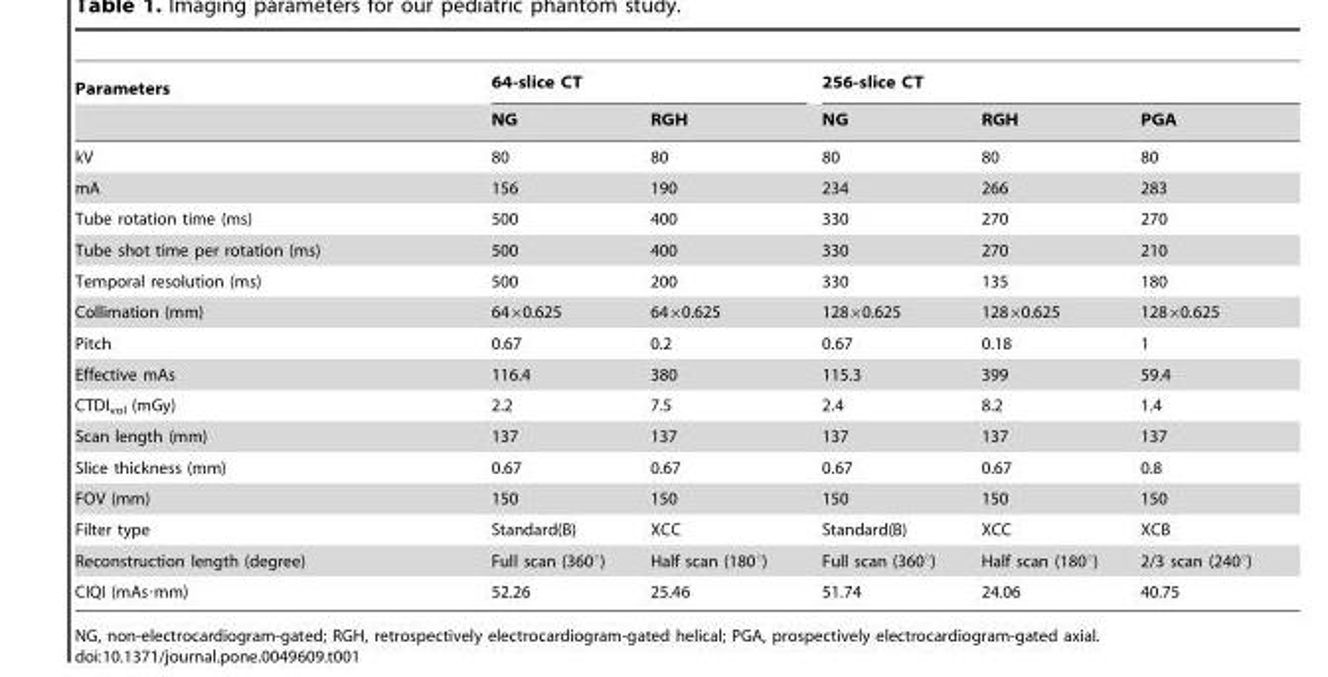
<table><thead><tr><td rowspan="2">Parameters</td><td colspan="2">64-slice CT</td><td colspan="3">256-slice CT</td></tr><tr><td>NG</td><td>RGH</td><td>NG</td><td>RGH</td><td>PGA</td></tr></thead><tbody><tr><td>kV</td><td>80</td><td>80</td><td>80</td><td>80</td><td>80</td></tr><tr><td>mA</td><td>156</td><td>190</td><td>234</td><td>266</td><td>283</td></tr><tr><td>Tube rotation time (ms)</td><td>500</td><td>400</td><td>330</td><td>270</td><td>270</td></tr><tr><td>Tube shot time per rotation (ms)</td><td>500</td><td>400</td><td>330</td><td>270</td><td>210</td></tr><tr><td>Temporal resolution (ms)</td><td>500</td><td>200</td><td>330</td><td>135</td><td>180</td></tr><tr><td>Collimation (mm)</td><td>64×0.625</td><td>64×0.625</td><td>128×0.625</td><td>128×0.625</td><td>128×0.625</td></tr><tr><td>Pitch</td><td>0.67</td><td>0.2</td><td>0.67</td><td>0.18</td><td>1</td></tr><tr><td>Effective mAs</td><td>116.4</td><td>380</td><td>115.3</td><td>399</td><td>59.4</td></tr><tr><td>CTDI<sub>vol</sub> (mGy)</td><td>2.2</td><td>7.5</td><td>2.4</td><td>8.2</td><td>1.4</td></tr><tr><td>Scan length (mm)</td><td>137</td><td>137</td><td>137</td><td>137</td><td>137</td></tr><tr><td>Slice thickness (mm)</td><td>0.67</td><td>0.67</td><td>0.67</td><td>0.67</td><td>0.8</td></tr><tr><td>FOV (mm)</td><td>150</td><td>150</td><td>150</td><td>150</td><td>150</td></tr><tr><td>Filter type</td><td>Standard(B)</td><td>XCC</td><td>Standard(B)</td><td>XCC</td><td>XCB</td></tr><tr><td>Reconstruction length (degree)</td><td>Full scan (360°)</td><td>Half scan (180°)</td><td>Full scan (360°)</td><td>Half scan (180°)</td><td>2/3 scan (240°)</td></tr><tr><td>CIQI (mAs⋅mm)</td><td>52.26</td><td>25.46</td><td>51.74</td><td>24.06</td><td>40.75</td></tr></tbody></table>